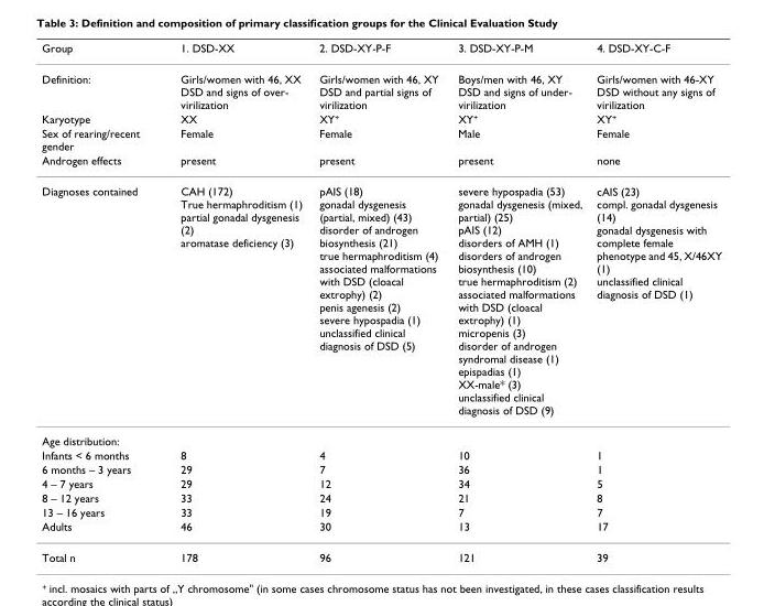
<table><thead><tr><td>Group</td><td>1. DSD-XX</td><td>2. DSD-XY-P-F</td><td>3. DSD-XY-P-M</td><td>4. DSD-XY-C-F</td></tr></thead><tbody><tr><td>Definition:</td><td>Girls/women with 46, XX DSD and signs of over- virilization</td><td>Girls/women with 46, XY DSD and partial signs of virilization</td><td>Boys/men with 46, XY DSD and signs of under- virilization</td><td>Girls/women with 46-XY DSD without any signs of virilization</td></tr><tr><td>Karyotype</td><td>XX</td><td>XY<sup>+</sup></td><td>XY<sup>+</sup></td><td>XY<sup>+</sup></td></tr><tr><td>Sex of rearing/recent gender</td><td>Female</td><td>Female</td><td>Male</td><td>Female</td></tr><tr><td>Androgen effects</td><td>present</td><td>present</td><td>present</td><td>none</td></tr><tr><td>Diagnoses contained</td><td>CAH (172) True hermaphroditism (1) partial gonadal dysgenesis (2) aromatase deficiency (3)</td><td>pAIS (18) gonadal dysgenesis (partial, mixed) (43) disorder of androgen biosynthesis (21) true hermaphroditism (4) associated malformations with DSD (cloacal extrophy) (2) penis agenesis (2) severe hypospadia (1) unclassified clinical diagnosis of DSD (5)</td><td>severe hypospadia (53) gonadal dysgenesis (mixed, partial) (25) pAIS (12) disorders of AMH (1) disorders of androgen biosynthesis (10) true hermaphroditism (2) associated malformations with DSD (cloacal extrophy) (1) micropenis (3) disorder of androgen syndromal disease (1) epispadias (1) XX-male* (3) unclassified clinical diagnosis of DSD (9)</td><td>cAIS (23) compl. gonadal dysgenesis (14) gonadal dysgenesis with complete female phenotype and 45, X/46XY (1) unclassified clinical diagnosis of DSD (1)</td></tr><tr><td colspan="5">Age distribution:</td></tr><tr><td>Infants &lt; 6 months</td><td>8</td><td>4</td><td>10</td><td>1</td></tr><tr><td>6 months – 3 years</td><td>29</td><td>7</td><td>36</td><td>1</td></tr><tr><td>4 – 7 years</td><td>29</td><td>12</td><td>34</td><td>5</td></tr><tr><td>8 – 12 years</td><td>33</td><td>24</td><td>21</td><td>8</td></tr><tr><td>13 – 16 years</td><td>33</td><td>19</td><td>7</td><td>7</td></tr><tr><td>Adults</td><td>46</td><td>30</td><td>13</td><td>17</td></tr><tr><td>Total n</td><td>178</td><td>96</td><td>121</td><td>39</td></tr></tbody></table>